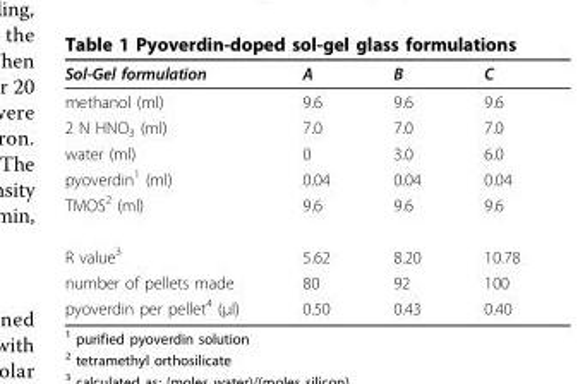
<table><thead><tr><td>Sol-Gel formulation</td><td>A</td><td>B</td><td>C</td></tr></thead><tbody><tr><td>methanol (ml)</td><td>9.6</td><td>9.6</td><td>9.6</td></tr><tr><td>2 N HNO<sub>3</sub> (ml)</td><td>7.0</td><td>7.0</td><td>7.0</td></tr><tr><td>water (ml)</td><td>0</td><td>3.0</td><td>6.0</td></tr><tr><td>pyoverdin<sup>1</sup> (ml)</td><td>0.04</td><td>0.04</td><td>0.04</td></tr><tr><td>TMOS<sup>2</sup> (ml)</td><td>9.6</td><td>9.6</td><td>9.6</td></tr><tr><td>R value<sup>3</sup></td><td>5.62</td><td>8.20</td><td>10.78</td></tr><tr><td>number of pellets made</td><td>80</td><td>92</td><td>100</td></tr><tr><td>pyoverdin per pellet<sup>4</sup> (μl)</td><td>0.50</td><td>0.43</td><td>0.40</td></tr></tbody></table>